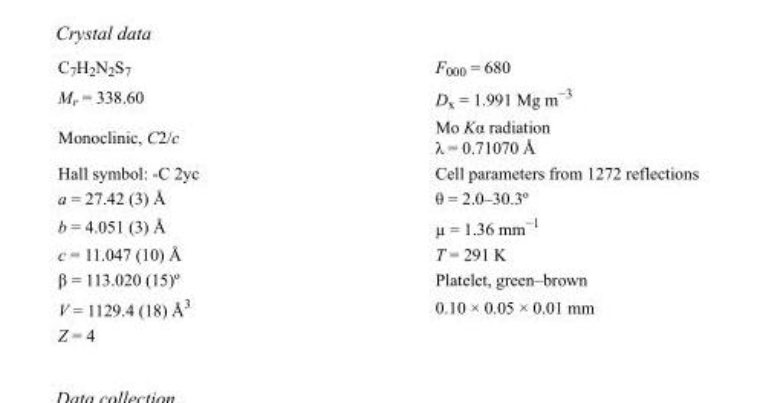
<table><tbody><tr><td>C<sub>7</sub>H<sub>2</sub>N<sub>2</sub>S<sub>7</sub></td><td>F000 = 680</td></tr><tr><td>M<sub>r</sub> = 338.60</td><td>D<sub>x</sub> = 1.991 Mg m<sup>−3</sup></td></tr><tr><td>Monoclinic, C2/c</td><td>Mo Kα radiation λ = 0.71070 Å</td></tr><tr><td>Hall symbol: -C 2yc</td><td>Cell parameters from 1272 reflections</td></tr><tr><td>a = 27.42 (3) Å</td><td>θ = 2.0–30.3º</td></tr><tr><td>b = 4.051 (3) Å</td><td>µ = 1.36 mm<sup>−1</sup></td></tr><tr><td>c = 11.047 (10) Å</td><td>T = 291 K</td></tr><tr><td>β = 113.020 (15)º</td><td>Platelet, green–brown</td></tr><tr><td>V = 1129.4 (18) Å<sup>3</sup></td><td>0.10 × 0.05 × 0.01 mm</td></tr><tr><td>Z = 4</td><td></td></tr></tbody></table>